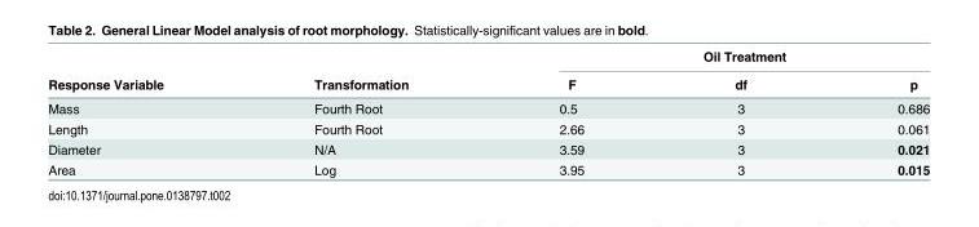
<table><thead><tr><td rowspan="2">Response Variable</td><td rowspan="2">Transformation</td><td colspan="3">Oil Treatment</td></tr><tr><td>F</td><td>df</td><td>p</td></tr></thead><tbody><tr><td>Mass</td><td>Fourth Root</td><td>0.5</td><td>3</td><td>0.686</td></tr><tr><td>Length</td><td>Fourth Root</td><td>2.66</td><td>3</td><td>0.061</td></tr><tr><td>Diameter</td><td>N/A</td><td>3.59</td><td>3</td><td>0.021</td></tr><tr><td>Area</td><td>Log</td><td>3.95</td><td>3</td><td>0.015</td></tr></tbody></table>